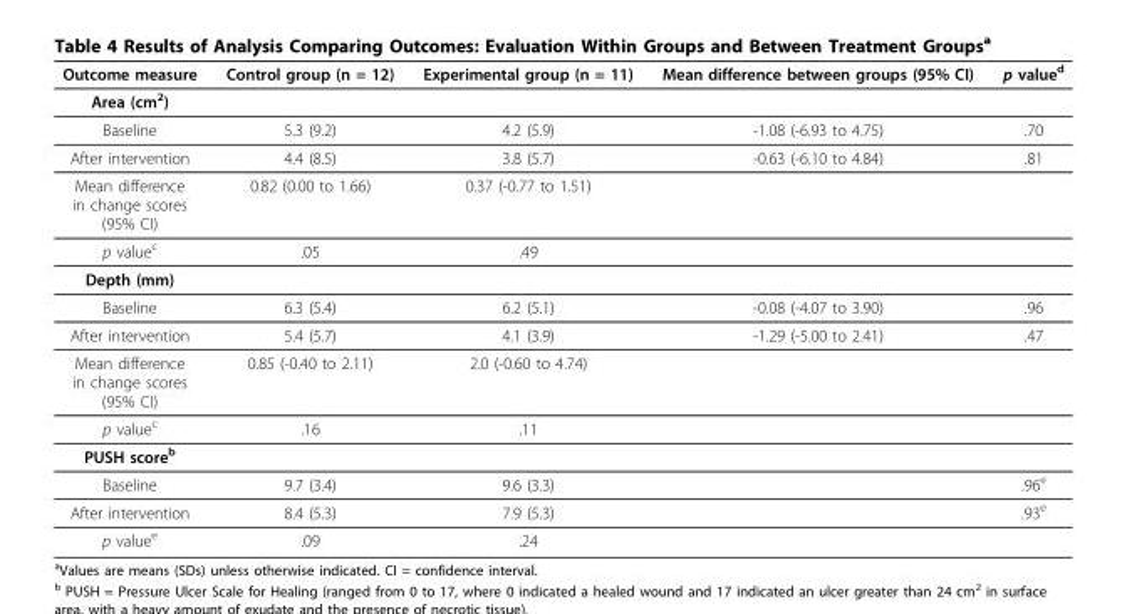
<table><thead><tr><td>Outcome measure</td><td>Control group (n = 12)</td><td>Experimental group (n = 11)</td><td>Mean difference between groups (95% CI)</td><td>p value<sup>d</sup></td></tr></thead><tbody><tr><td colspan="5">Area (cm<sup>2</sup>)</td></tr><tr><td>Baseline</td><td>5.3 (9.2)</td><td>4.2 (5.9)</td><td>-1.08 (-6.93 to 4.75)</td><td>.70</td></tr><tr><td>After intervention</td><td>4.4 (8.5)</td><td>3.8 (5.7)</td><td>-0.63 (-6.10 to 4.84)</td><td>.81</td></tr><tr><td>Mean difference in change scores (95% CI)</td><td>0.82 (0.00 to 1.66)</td><td>0.37 (-0.77 to 1.51)</td><td></td><td></td></tr><tr><td>p value<sup>c</sup></td><td>.05</td><td>.49</td><td></td><td></td></tr><tr><td colspan="5">Depth (mm)</td></tr><tr><td>Baseline</td><td>6.3 (5.4)</td><td>6.2 (5.1)</td><td>-0.08 (-4.07 to 3.90)</td><td>.96</td></tr><tr><td>After intervention</td><td>5.4 (5.7)</td><td>4.1 (3.9)</td><td>-1.29 (-5.00 to 2.41)</td><td>.47</td></tr><tr><td>Mean difference in change scores (95% CI)</td><td>0.85 (-0.40 to 2.11)</td><td>2.0 (-0.60 to 4.74)</td><td></td><td></td></tr><tr><td>p value<sup>c</sup></td><td>.16</td><td>.11</td><td></td><td></td></tr><tr><td colspan="5">PUSH score<sup>b</sup></td></tr><tr><td>Baseline</td><td>9.7 (3.4)</td><td>9.6 (3.3)</td><td></td><td>.96<sup>e</sup></td></tr><tr><td>After intervention</td><td>8.4 (5.3)</td><td>7.9 (5.3)</td><td></td><td>.93<sup>e</sup></td></tr><tr><td>p value<sup>e</sup></td><td>.09</td><td>.24</td><td></td><td></td></tr></tbody></table>